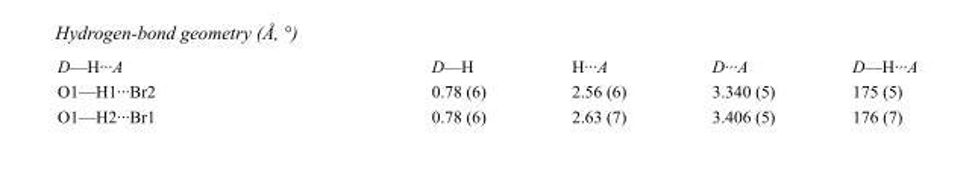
<table><tbody><tr><td>D—H···A</td><td>D—H</td><td>H···A</td><td>D···A</td><td>D—H···A</td></tr><tr><td>O1—H1···Br2</td><td>0.78 (6)</td><td>2.56 (6)</td><td>3.340 (5)</td><td>175 (5)</td></tr><tr><td>O1—H2···Br1</td><td>0.78 (6)</td><td>2.63 (7)</td><td>3.406 (5)</td><td>176 (7)</td></tr></tbody></table>